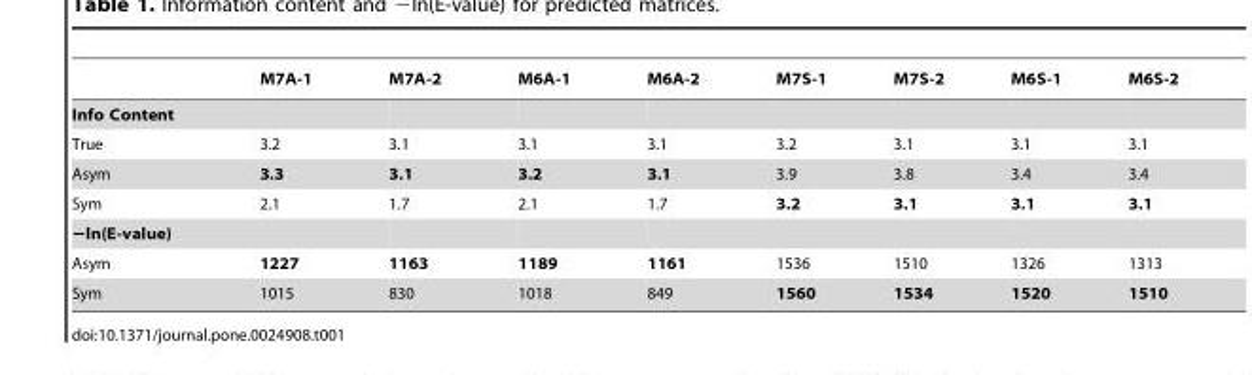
<table><thead><tr><td></td><td>M7A-1</td><td>M7A-2</td><td>M6A-1</td><td>M6A-2</td><td>M7S-1</td><td>M7S-2</td><td>M6S-1</td><td>M6S-2</td></tr></thead><tbody><tr><td colspan="9">Info Content</td></tr><tr><td>True</td><td>3.2</td><td>3.1</td><td>3.1</td><td>3.1</td><td>3.2</td><td>3.1</td><td>3.1</td><td>3.1</td></tr><tr><td>Asym</td><td>3.3</td><td>3.1</td><td>3.2</td><td>3.1</td><td>3.9</td><td>3.8</td><td>3.4</td><td>3.4</td></tr><tr><td>Sym</td><td>2.1</td><td>1.7</td><td>2.1</td><td>1.7</td><td>3.2</td><td>3.1</td><td>3.1</td><td>3.1</td></tr><tr><td colspan="9">−ln(E-value)</td></tr><tr><td>Asym</td><td>1227</td><td>1163</td><td>1189</td><td>1161</td><td>1536</td><td>1510</td><td>1326</td><td>1313</td></tr><tr><td>Sym</td><td>1015</td><td>830</td><td>1018</td><td>849</td><td>1560</td><td>1534</td><td>1520</td><td>1510</td></tr></tbody></table>